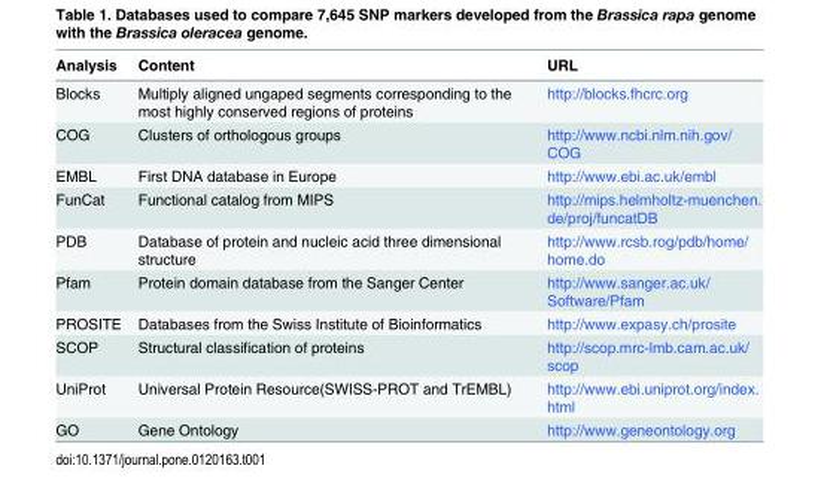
<table><thead><tr><td>Analysis</td><td>Content</td><td>URL</td></tr></thead><tbody><tr><td>Blocks</td><td>Multiply aligned ungaped segments corresponding to the most highly conserved regions of proteins</td><td>http://blocks.fhcrc.org</td></tr><tr><td>COG</td><td>Clusters of orthologous groups</td><td>http://www.ncbi.nlm.nih.gov/ COG</td></tr><tr><td>EMBL</td><td>First DNA database in Europe</td><td>http://www.ebi.ac.uk/embl</td></tr><tr><td>FunCat</td><td>Functional catalog from MIPS</td><td>http://mips.helmholtz-muenchen. de/proj/funcatDB</td></tr><tr><td>PDB</td><td>Database of protein and nucleic acid three dimensional structure</td><td>http://www.rcsb.rog/pdb/home/ home.do</td></tr><tr><td>Pfam</td><td>Protein domain database from the Sanger Center</td><td>http://www.sanger.ac.uk/ Software/Pfam</td></tr><tr><td>PROSITE</td><td>Databases from the Swiss Institute of Bioinformatics</td><td>http://www.expasy.ch/prosite</td></tr><tr><td>SCOP</td><td>Structural classification of proteins</td><td>http://scop.mrc-lmb.cam.ac.uk/ scop</td></tr><tr><td>UniProt</td><td>Universal Protein Resource(SWISS-PROT and TrEMBL)</td><td>http://www.ebi.uniprot.org/index. html</td></tr><tr><td>GO</td><td>Gene Ontology</td><td>http://www.geneontology.org</td></tr></tbody></table>